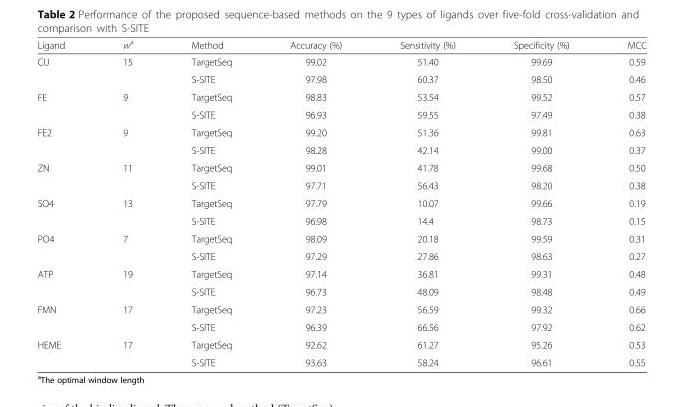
<table><thead><tr><td>Ligand</td><td>w<sup>a</sup></td><td>Method</td><td>Accuracy (%)</td><td>Sensitivity (%)</td><td>Specificity (%)</td><td>MCC</td></tr></thead><tbody><tr><td rowspan="2">CU</td><td rowspan="2">15</td><td>TargetSeq</td><td>99.02</td><td>51.40</td><td>99.69</td><td>0.59</td></tr><tr><td>S-SITE</td><td>97.98</td><td>60.37</td><td>98.50</td><td>0.46</td></tr><tr><td rowspan="2">FE</td><td rowspan="2">9</td><td>TargetSeq</td><td>98.83</td><td>53.54</td><td>99.52</td><td>0.57</td></tr><tr><td>S-SITE</td><td>96.93</td><td>59.55</td><td>97.49</td><td>0.38</td></tr><tr><td rowspan="2">FE2</td><td rowspan="2">9</td><td>TargetSeq</td><td>99.20</td><td>51.36</td><td>99.81</td><td>0.63</td></tr><tr><td>S-SITE</td><td>98.28</td><td>42.14</td><td>99.00</td><td>0.37</td></tr><tr><td rowspan="2">ZN</td><td rowspan="2">11</td><td>TargetSeq</td><td>99.01</td><td>41.78</td><td>99.68</td><td>0.50</td></tr><tr><td>S-SITE</td><td>97.71</td><td>56.43</td><td>98.20</td><td>0.38</td></tr><tr><td rowspan="2">SO4</td><td rowspan="2">13</td><td>TargetSeq</td><td>97.79</td><td>10.07</td><td>99.66</td><td>0.19</td></tr><tr><td>S-SITE</td><td>96.98</td><td>14.4</td><td>98.73</td><td>0.15</td></tr><tr><td rowspan="2">PO4</td><td rowspan="2">7</td><td>TargetSeq</td><td>98.09</td><td>20.18</td><td>99.59</td><td>0.31</td></tr><tr><td>S-SITE</td><td>97.29</td><td>27.86</td><td>98.63</td><td>0.27</td></tr><tr><td rowspan="2">ATP</td><td rowspan="2">19</td><td>TargetSeq</td><td>97.14</td><td>36.81</td><td>99.31</td><td>0.48</td></tr><tr><td>S-SITE</td><td>96.73</td><td>48.09</td><td>98.48</td><td>0.49</td></tr><tr><td rowspan="2">FMN</td><td rowspan="2">17</td><td>TargetSeq</td><td>97.23</td><td>56.59</td><td>99.32</td><td>0.66</td></tr><tr><td>S-SITE</td><td>96.39</td><td>66.56</td><td>97.92</td><td>0.62</td></tr><tr><td rowspan="2">HEME</td><td rowspan="2">17</td><td>TargetSeq</td><td>92.62</td><td>61.27</td><td>95.26</td><td>0.53</td></tr><tr><td>S-SITE</td><td>93.63</td><td>58.24</td><td>96.61</td><td>0.55</td></tr></tbody></table>